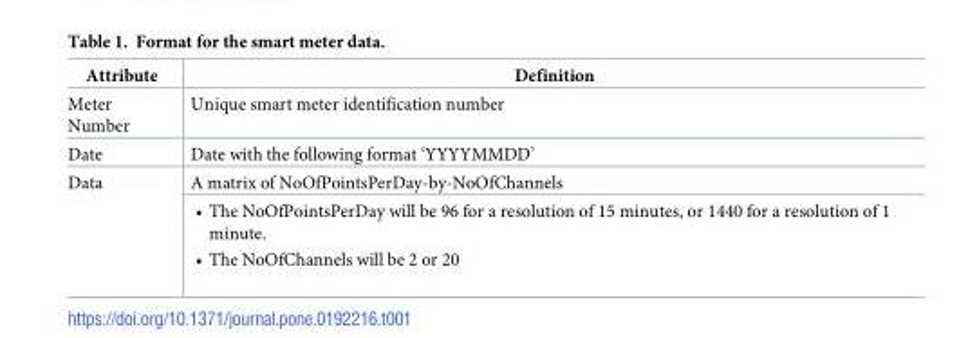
<table><thead><tr><td>Attribute</td><td>Definition</td></tr></thead><tbody><tr><td>Meter Number</td><td>Unique smart meter identification number</td></tr><tr><td>Date</td><td>Date with the following format ‘YYYYMMDD’</td></tr><tr><td rowspan="2">Data</td><td>A matrix of NoOfPointsPerDay-by-NoOfChannels</td></tr><tr><td>• The NoOfPointsPerDay will be 96 for a resolution of 15 minutes, or 1440 for a resolution of 1 minute. • The NoOfChannels will be 2 or 20</td></tr></tbody></table>